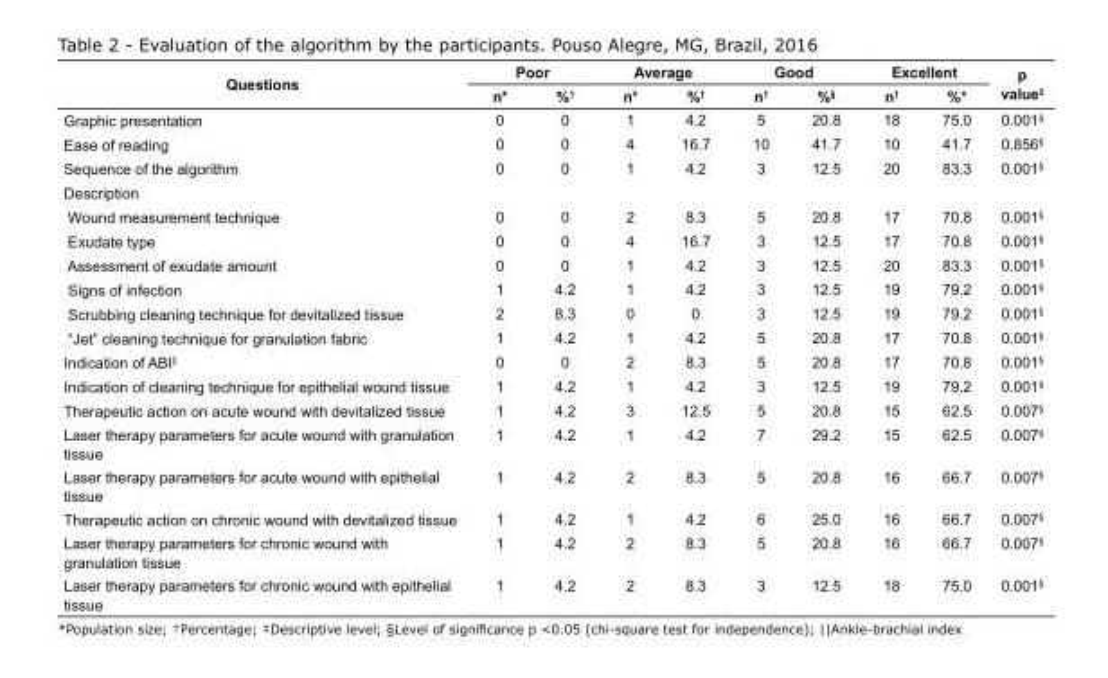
<table><tbody><tr><td rowspan="2">Questions</td><td colspan="2">Poor</td><td colspan="2">Average</td><td colspan="2">Good</td><td colspan="2">Excellent</td><td rowspan="2">p value<sup>‡</sup></td></tr><tr><td>n*</td><td>%<sup>†</sup></td><td>n*</td><td>%<sup>†</sup></td><td>n<sup>†</sup></td><td>%<sup>§</sup></td><td>n<sup>†</sup></td><td>%*</td></tr><tr><td>Graphic presentation</td><td>0</td><td>0</td><td>1</td><td>4.2</td><td>5</td><td>20.8</td><td>18</td><td>75.0</td><td>0.001<sup>§</sup></td></tr><tr><td>Ease of reading</td><td>0</td><td>0</td><td>4</td><td>16.7</td><td>10</td><td>41.7</td><td>10</td><td>41.7</td><td>0.856<sup>§</sup></td></tr><tr><td>Sequence of the algorithm</td><td>0</td><td>0</td><td>1</td><td>4.2</td><td>3</td><td>12.5</td><td>20</td><td>83.3</td><td>0.001<sup>§</sup></td></tr><tr><td colspan="10">Description</td></tr><tr><td>Wound measurement technique</td><td>0</td><td>0</td><td>2</td><td>8.3</td><td>5</td><td>20.8</td><td>17</td><td>70.8</td><td>0.001<sup>§</sup></td></tr><tr><td>Exudate type</td><td>0</td><td>0</td><td>4</td><td>16.7</td><td>3</td><td>12.5</td><td>17</td><td>70.8</td><td>0.001<sup>§</sup></td></tr><tr><td>Assessment of exudate amount</td><td>0</td><td>0</td><td>1</td><td>4.2</td><td>3</td><td>12.5</td><td>20</td><td>83.3</td><td>0.001<sup>§</sup></td></tr><tr><td>Signs of infection</td><td>1</td><td>4.2</td><td>1</td><td>4.2</td><td>3</td><td>12.5</td><td>19</td><td>79.2</td><td>0.001<sup>§</sup></td></tr><tr><td>Scrubbing cleaning technique for devitalized tissue</td><td>2</td><td>8.3</td><td>0</td><td>0</td><td>3</td><td>12.5</td><td>19</td><td>79.2</td><td>0.001<sup>§</sup></td></tr><tr><td>“Jet” cleaning technique for granulation fabric</td><td>1</td><td>4.2</td><td>1</td><td>4.2</td><td>5</td><td>20.8</td><td>17</td><td>70.8</td><td>0.001<sup>§</sup></td></tr><tr><td>Indication of ABI<sup>||</sup></td><td>0</td><td>0</td><td>2</td><td>8.3</td><td>5</td><td>20.8</td><td>17</td><td>70.8</td><td>0.001<sup>§</sup></td></tr><tr><td>Indication of cleaning technique for epithelial wound tissue</td><td>1</td><td>4.2</td><td>1</td><td>4.2</td><td>3</td><td>12.5</td><td>19</td><td>79.2</td><td>0.001<sup>§</sup></td></tr><tr><td>Therapeutic action on acute wound with devitalized tissue</td><td>1</td><td>4.2</td><td>3</td><td>12.5</td><td>5</td><td>20.8</td><td>15</td><td>62.5</td><td>0.007<sup>§</sup></td></tr><tr><td>Laser therapy parameters for acute wound with granulation tissue</td><td>1</td><td>4.2</td><td>1</td><td>4.2</td><td>7</td><td>29.2</td><td>15</td><td>62.5</td><td>0.007<sup>§</sup></td></tr><tr><td>Laser therapy parameters for acute wound with epithelial tissue</td><td>1</td><td>4.2</td><td>2</td><td>8.3</td><td>5</td><td>20.8</td><td>16</td><td>66.7</td><td>0.007<sup>§</sup></td></tr><tr><td>Therapeutic action on chronic wound with devitalized tissue</td><td>1</td><td>4.2</td><td>1</td><td>4.2</td><td>6</td><td>25.0</td><td>16</td><td>66.7</td><td>0.007<sup>§</sup></td></tr><tr><td>Laser therapy parameters for chronic wound with granulation tissue</td><td>1</td><td>4.2</td><td>2</td><td>8.3</td><td>5</td><td>20.8</td><td>16</td><td>66.7</td><td>0.007<sup>§</sup></td></tr><tr><td>Laser therapy parameters for chronic wound with epithelial tissue</td><td>1</td><td>4.2</td><td>2</td><td>8.3</td><td>3</td><td>12.5</td><td>18</td><td>75.0</td><td>0.001<sup>§</sup></td></tr></tbody></table>